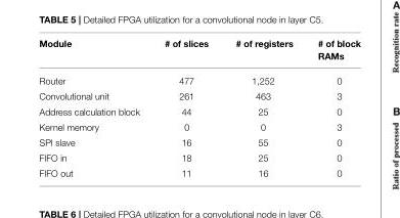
<table><thead><tr><td>Module</td><td># of slices</td><td># of registers</td><td># of block RAMs</td></tr></thead><tbody><tr><td>Router</td><td>477</td><td>1,252</td><td>0</td></tr><tr><td>Convolutional unit</td><td>261</td><td>463</td><td>3</td></tr><tr><td>Address calculation block</td><td>44</td><td>25</td><td>0</td></tr><tr><td>Kernel memory</td><td>0</td><td>0</td><td>3</td></tr><tr><td>SPI slave</td><td>16</td><td>55</td><td>0</td></tr><tr><td>FIFO in</td><td>18</td><td>25</td><td>0</td></tr><tr><td>FIFO out</td><td>11</td><td>16</td><td>0</td></tr></tbody></table>